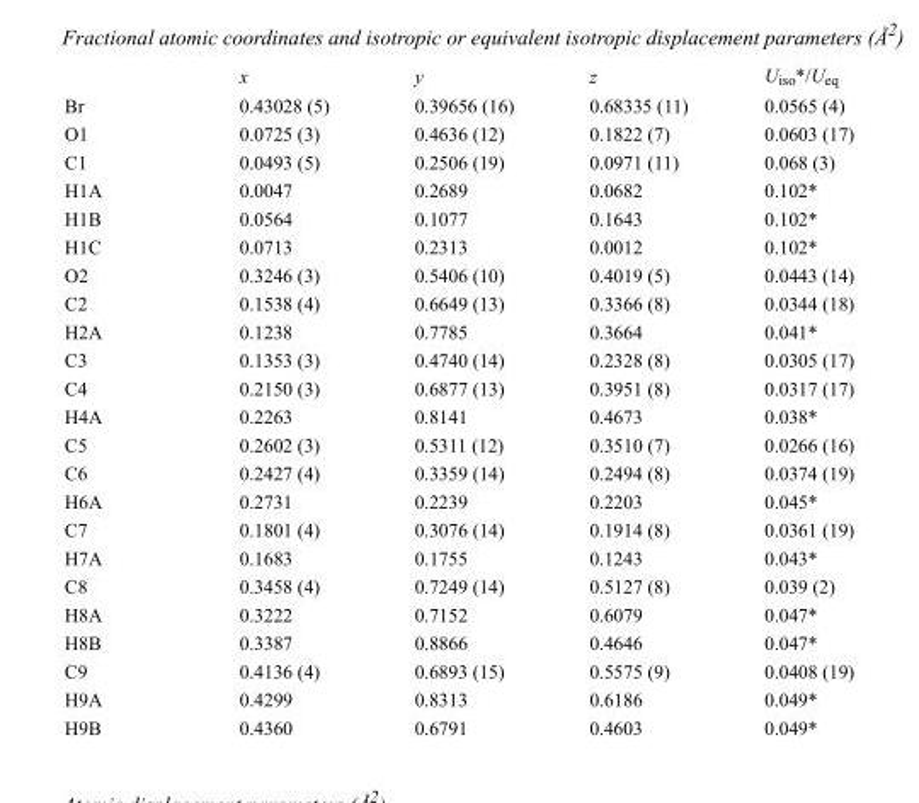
<table><thead><tr><td></td><td>x</td><td>y</td><td>z</td><td>U<sub>iso</sub>*/U<sub>eq</sub></td></tr></thead><tbody><tr><td>Br</td><td>0.43028 (5)</td><td>0.39656 (16)</td><td>0.68335 (11)</td><td>0.0565 (4)</td></tr><tr><td>O1</td><td>0.0725 (3)</td><td>0.4636 (12)</td><td>0.1822 (7)</td><td>0.0603 (17)</td></tr><tr><td>C1</td><td>0.0493 (5)</td><td>0.2506 (19)</td><td>0.0971 (11)</td><td>0.068 (3)</td></tr><tr><td>H1A</td><td>0.0047</td><td>0.2689</td><td>0.0682</td><td>0.102*</td></tr><tr><td>H1B</td><td>0.0564</td><td>0.1077</td><td>0.1643</td><td>0.102*</td></tr><tr><td>H1C</td><td>0.0713</td><td>0.2313</td><td>0.0012</td><td>0.102*</td></tr><tr><td>O2</td><td>0.3246 (3)</td><td>0.5406 (10)</td><td>0.4019 (5)</td><td>0.0443 (14)</td></tr><tr><td>C2</td><td>0.1538 (4)</td><td>0.6649 (13)</td><td>0.3366 (8)</td><td>0.0344 (18)</td></tr><tr><td>H2A</td><td>0.1238</td><td>0.7785</td><td>0.3664</td><td>0.041*</td></tr><tr><td>C3</td><td>0.1353 (3)</td><td>0.4740 (14)</td><td>0.2328 (8)</td><td>0.0305 (17)</td></tr><tr><td>C4</td><td>0.2150 (3)</td><td>0.6877 (13)</td><td>0.3951 (8)</td><td>0.0317 (17)</td></tr><tr><td>H4A</td><td>0.2263</td><td>0.8141</td><td>0.4673</td><td>0.038*</td></tr><tr><td>C5</td><td>0.2602 (3)</td><td>0.5311 (12)</td><td>0.3510 (7)</td><td>0.0266 (16)</td></tr><tr><td>C6</td><td>0.2427 (4)</td><td>0.3359 (14)</td><td>0.2494 (8)</td><td>0.0374 (19)</td></tr><tr><td>H6A</td><td>0.2731</td><td>0.2239</td><td>0.2203</td><td>0.045*</td></tr><tr><td>C7</td><td>0.1801 (4)</td><td>0.3076 (14)</td><td>0.1914 (8)</td><td>0.0361 (19)</td></tr><tr><td>H7A</td><td>0.1683</td><td>0.1755</td><td>0.1243</td><td>0.043*</td></tr><tr><td>C8</td><td>0.3458 (4)</td><td>0.7249 (14)</td><td>0.5127 (8)</td><td>0.039 (2)</td></tr><tr><td>H8A</td><td>0.3222</td><td>0.7152</td><td>0.6079</td><td>0.047*</td></tr><tr><td>H8B</td><td>0.3387</td><td>0.8866</td><td>0.4646</td><td>0.047*</td></tr><tr><td>C9</td><td>0.4136 (4)</td><td>0.6893 (15)</td><td>0.5575 (9)</td><td>0.0408 (19)</td></tr><tr><td>H9A</td><td>0.4299</td><td>0.8313</td><td>0.6186</td><td>0.049*</td></tr><tr><td>H9B</td><td>0.4360</td><td>0.6791</td><td>0.4603</td><td>0.049*</td></tr></tbody></table>